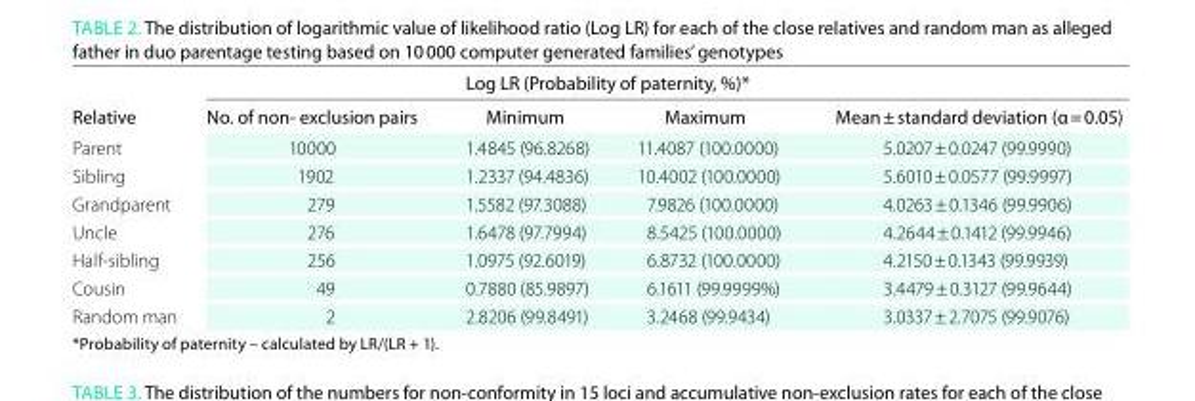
<table><thead><tr><td rowspan="2">relative</td><td rowspan="2">no. of non- exclusion pairs</td><td colspan="3">Log Lr (Probability of paternity, %)*</td></tr><tr><td>Minimum</td><td>Maximum</td><td>Mean ± standard deviation (α = 0.05)</td></tr></thead><tbody><tr><td>Parent</td><td>10000</td><td>1.4845 (96.8268)</td><td>11.4087 (100.0000)</td><td>5.0207 ± 0.0247 (99.9990)</td></tr><tr><td>Sibling</td><td>1902</td><td>1.2337 (94.4836)</td><td>10.4002 (100.0000)</td><td>5.6010 ± 0.0577 (99.9997)</td></tr><tr><td>Grandparent</td><td>279</td><td>1.5582 (97.3088)</td><td>7.9826 (100.0000)</td><td>4.0263 ± 0.1346 (99.9906)</td></tr><tr><td>Uncle</td><td>276</td><td>1.6478 (97.7994)</td><td>8.5425 (100.0000)</td><td>4.2644 ± 0.1412 (99.9946)</td></tr><tr><td>Half-sibling</td><td>256</td><td>1.0975 (92.6019)</td><td>6.8732 (100.0000)</td><td>4.2150 ± 0.1343 (99.9939)</td></tr><tr><td>Cousin</td><td>49</td><td>0.7880 (85.9897)</td><td>6.1611 (99.9999%)</td><td>3.4479 ± 0.3127 (99.9644)</td></tr><tr><td>Random man</td><td>2</td><td>2.8206 (99.8491)</td><td>3.2468 (99.9434)</td><td>3.0337 ± 2.7075 (99.9076)</td></tr></tbody></table>